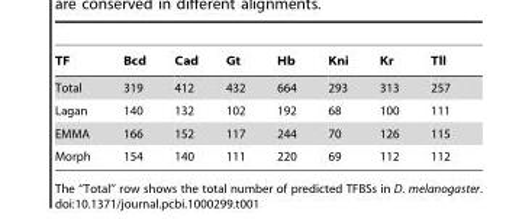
<table><thead><tr><td>TF</td><td>Bcd</td><td>Cad</td><td>Gt</td><td>Hb</td><td>Kni</td><td>Kr</td><td>Tll</td></tr></thead><tbody><tr><td>Total</td><td>319</td><td>412</td><td>432</td><td>664</td><td>293</td><td>313</td><td>257</td></tr><tr><td>Lagan</td><td>140</td><td>132</td><td>102</td><td>192</td><td>68</td><td>100</td><td>111</td></tr><tr><td>EMMA</td><td>166</td><td>152</td><td>117</td><td>244</td><td>70</td><td>126</td><td>115</td></tr><tr><td>Morph</td><td>154</td><td>140</td><td>111</td><td>220</td><td>69</td><td>112</td><td>112</td></tr></tbody></table>